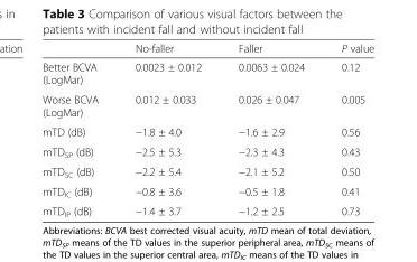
<table><thead><tr><td></td><td>No-faller</td><td>Faller</td><td>P value</td></tr></thead><tbody><tr><td>Better BCVA (LogMar)</td><td>0.0023 ± 0.012</td><td>0.0063 ± 0.024</td><td>0.12</td></tr><tr><td>Worse BCVA (LogMar)</td><td>0.012 ± 0.033</td><td>0.026 ± 0.047</td><td>0.005</td></tr><tr><td>mTD (dB)</td><td>−1.8 ± 4.0</td><td>−1.6 ± 2.9</td><td>0.56</td></tr><tr><td>mTD<sub>SP</sub> (dB)</td><td>−2.5 ± 5.3</td><td>−2.3 ± 4.3</td><td>0.43</td></tr><tr><td>mTD<sub>SC</sub> (dB)</td><td>−2.2 ± 5.4</td><td>−2.1 ± 5.2</td><td>0.50</td></tr><tr><td>mTD<sub>IC</sub> (dB)</td><td>−0.8 ± 3.6</td><td>−0.5 ± 1.8</td><td>0.41</td></tr><tr><td>mTD<sub>IP</sub> (dB)</td><td>−1.4 ± 3.7</td><td>−1.2 ± 2.5</td><td>0.73</td></tr></tbody></table>